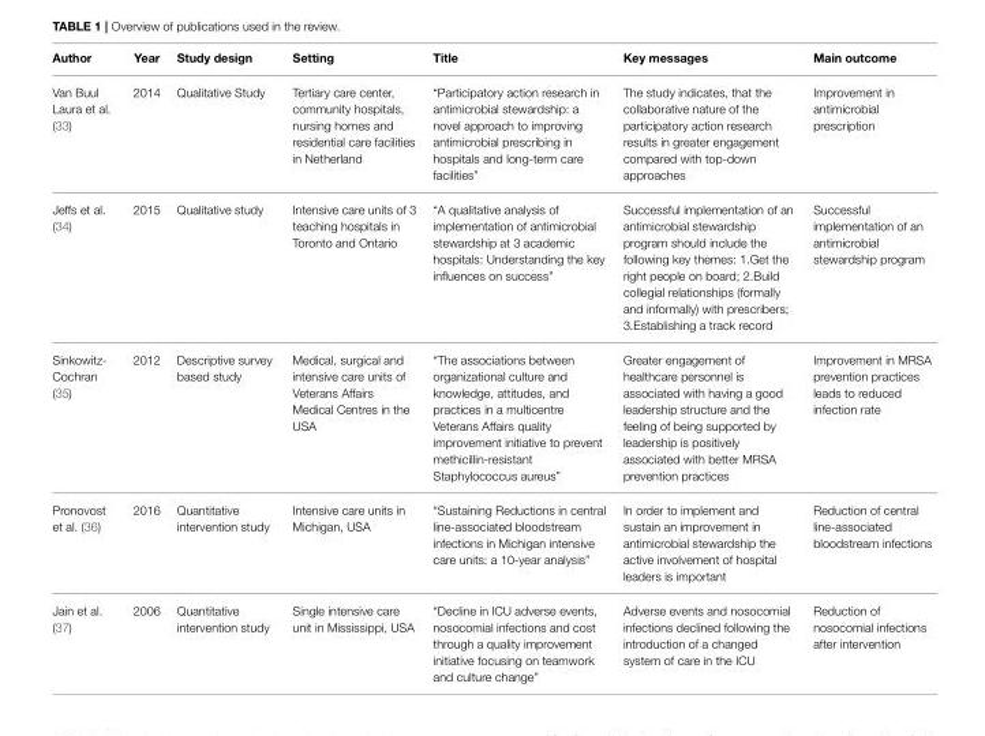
<table><thead><tr><td>Author</td><td>Year</td><td>Study design</td><td>Setting</td><td>Title</td><td>Key messages</td><td>Main outcome</td></tr></thead><tbody><tr><td>Van Buul Laura et al. (33)</td><td>2014</td><td>Qualitative Study</td><td>Tertiary care center, community hospitals, nursing homes and residential care facilities in Netherland</td><td>“Participatory action research in antimicrobial stewardship: a novel approach to improving antimicrobial prescribing in hospitals and long-term care facilities”</td><td>The study indicates, that the collaborative nature of the participatory action research results in greater engagement compared with top-down approaches</td><td>Improvement in antimicrobial prescription</td></tr><tr><td>Jeffs et al. (34)</td><td>2015</td><td>Qualitative study</td><td>Intensive care units of 3 teaching hospitals in Toronto and Ontario</td><td>“A qualitative analysis of implementation of antimicrobial stewardship at 3 academic hospitals: Understanding the key influences on success”</td><td>Successful implementation of an antimicrobial stewardship program should include the following key themes: 1.Get the right people on board; 2.Build collegial relationships (formally and informally) with prescribers; 3.Establishing a track record</td><td>Successful implementation of an antimicrobial stewardship program</td></tr><tr><td>Sinkowitz- Cochran (35)</td><td>2012</td><td>Descriptive survey based study</td><td>Medical, surgical and intensive care units of Veterans Affairs Medical Centres in the USA</td><td>“The associations between organizational culture and knowledge, attitudes, and practices in a multicentre Veterans Affairs quality improvement initiative to prevent methicillin-resistant Staphylococcus aureus”</td><td>Greater engagement of healthcare personnel is associated with having a good leadership structure and the feeling of being supported by leadership is positively associated with better MRSA prevention practices</td><td>Improvement in MRSA prevention practices leads to reduced infection rate</td></tr><tr><td>Pronovost et al. (36)</td><td>2016</td><td>Quantitative intervention study</td><td>Intensive care units in Michigan, USA</td><td>“Sustaining Reductions in central line-associated bloodstream infections in Michigan intensive care units: a 10-year analysis”</td><td>In order to implement and sustain an improvement in antimicrobial stewardship the active involvement of hospital leaders is important</td><td>Reduction of central line-associated bloodstream infections</td></tr><tr><td>Jain et al. (37)</td><td>2006</td><td>Quantitative intervention study</td><td>Single intensive care unit in Mississippi, USA</td><td>“Decline in ICU adverse events, nosocomial infections and cost through a quality improvement initiative focusing on teamwork and culture change”</td><td>Adverse events and nosocomial infections declined following the introduction of a changed system of care in the ICU</td><td>Reduction of nosocomial infections after intervention</td></tr></tbody></table>